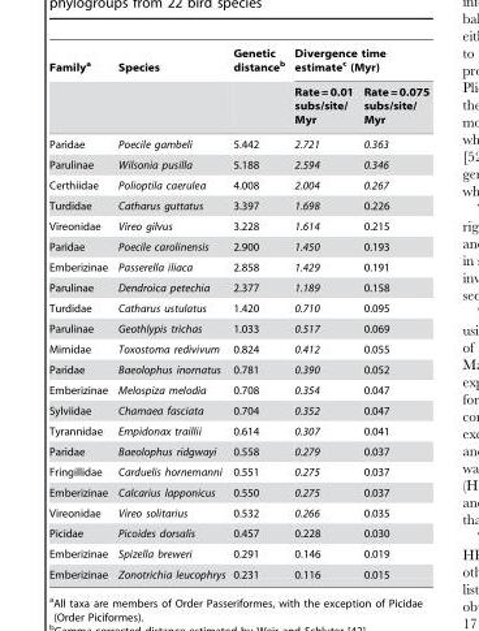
<table><thead><tr><td rowspan="2">Family<sup>a</sup></td><td rowspan="2">Species</td><td rowspan="2">Genetic distance<sup>b</sup></td><td colspan="2">Divergence time estimate<sup>c</sup> (Myr)</td></tr><tr><td>Rate = 0.01 subs/site/ Myr</td><td>Rate = 0.075 subs/site/ Myr</td></tr></thead><tbody><tr><td>Paridae</td><td>Poecile gambeli</td><td>5.442</td><td>2.721</td><td>0.363</td></tr><tr><td>Parulinae</td><td>Wilsonia pusilla</td><td>5.188</td><td>2.594</td><td>0.346</td></tr><tr><td>Certhiidae</td><td>Polioptila caerulea</td><td>4.008</td><td>2.004</td><td>0.267</td></tr><tr><td>Turdidae</td><td>Catharus guttatus</td><td>3.397</td><td>1.698</td><td>0.226</td></tr><tr><td>Vireonidae</td><td>Vireo gilvus</td><td>3.228</td><td>1.614</td><td>0.215</td></tr><tr><td>Paridae</td><td>Poecile carolinensis</td><td>2.900</td><td>1.450</td><td>0.193</td></tr><tr><td>Emberizinae</td><td>Passerella iliaca</td><td>2.858</td><td>1.429</td><td>0.191</td></tr><tr><td>Parulinae</td><td>Dendroica petechia</td><td>2.377</td><td>1.189</td><td>0.158</td></tr><tr><td>Turdidae</td><td>Catharus ustulatus</td><td>1.420</td><td>0.710</td><td>0.095</td></tr><tr><td>Parulinae</td><td>Geothlypis trichas</td><td>1.033</td><td>0.517</td><td>0.069</td></tr><tr><td>Mimidae</td><td>Toxostoma redivivum</td><td>0.824</td><td>0.412</td><td>0.055</td></tr><tr><td>Paridae</td><td>Baeolophus inornatus</td><td>0.781</td><td>0.390</td><td>0.052</td></tr><tr><td>Emberizinae</td><td>Melospiza melodia</td><td>0.708</td><td>0.354</td><td>0.047</td></tr><tr><td>Sylviidae</td><td>Chamaea fasciata</td><td>0.704</td><td>0.352</td><td>0.047</td></tr><tr><td>Tyrannidae</td><td>Empidonax traillii</td><td>0.614</td><td>0.307</td><td>0.041</td></tr><tr><td>Paridae</td><td>Baeolophus ridgwayi</td><td>0.558</td><td>0.279</td><td>0.037</td></tr><tr><td>Fringillidae</td><td>Carduelis hornemanni</td><td>0.551</td><td>0.275</td><td>0.037</td></tr><tr><td>Emberizinae</td><td>Calcarius lapponicus</td><td>0.550</td><td>0.275</td><td>0.037</td></tr><tr><td>Vireonidae</td><td>Vireo solitarius</td><td>0.532</td><td>0.266</td><td>0.035</td></tr><tr><td>Picidae</td><td>Picoides dorsalis</td><td>0.457</td><td>0.228</td><td>0.030</td></tr><tr><td>Emberizinae</td><td>Spizella breweri</td><td>0.291</td><td>0.146</td><td>0.019</td></tr><tr><td>Emberizinae</td><td>Zonotrichia leucophrys</td><td>0.231</td><td>0.116</td><td>0.015</td></tr></tbody></table>